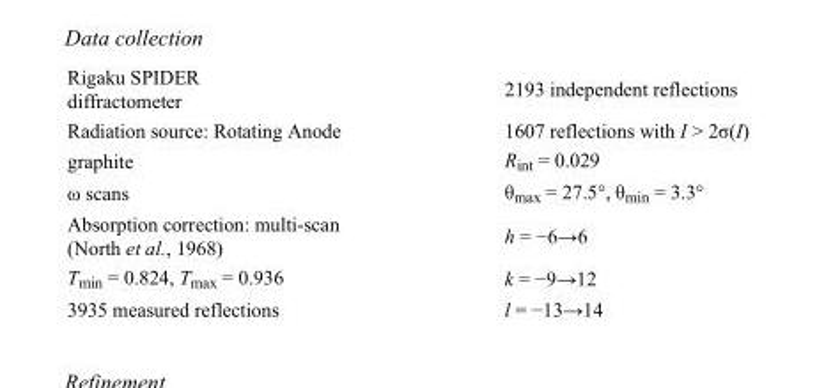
<table><tbody><tr><td>Rigaku SPIDER diffractometer</td><td>2193 independent reflections</td></tr><tr><td>Radiation source: Rotating Anode</td><td>1607 reflections with I &gt; 2σ(I)</td></tr><tr><td>graphite</td><td>R<sub>int</sub> = 0.029</td></tr><tr><td>ω scans</td><td>θ<sub>max</sub> = 27.5°, θ<sub>min</sub> = 3.3°</td></tr><tr><td>Absorption correction: multi-scan (North et al., 1968)</td><td>h = −6→6</td></tr><tr><td>T<sub>min</sub> = 0.824, T<sub>max</sub> = 0.936</td><td>k = −9→12</td></tr><tr><td>3935 measured reflections</td><td>l = −13→14</td></tr></tbody></table>